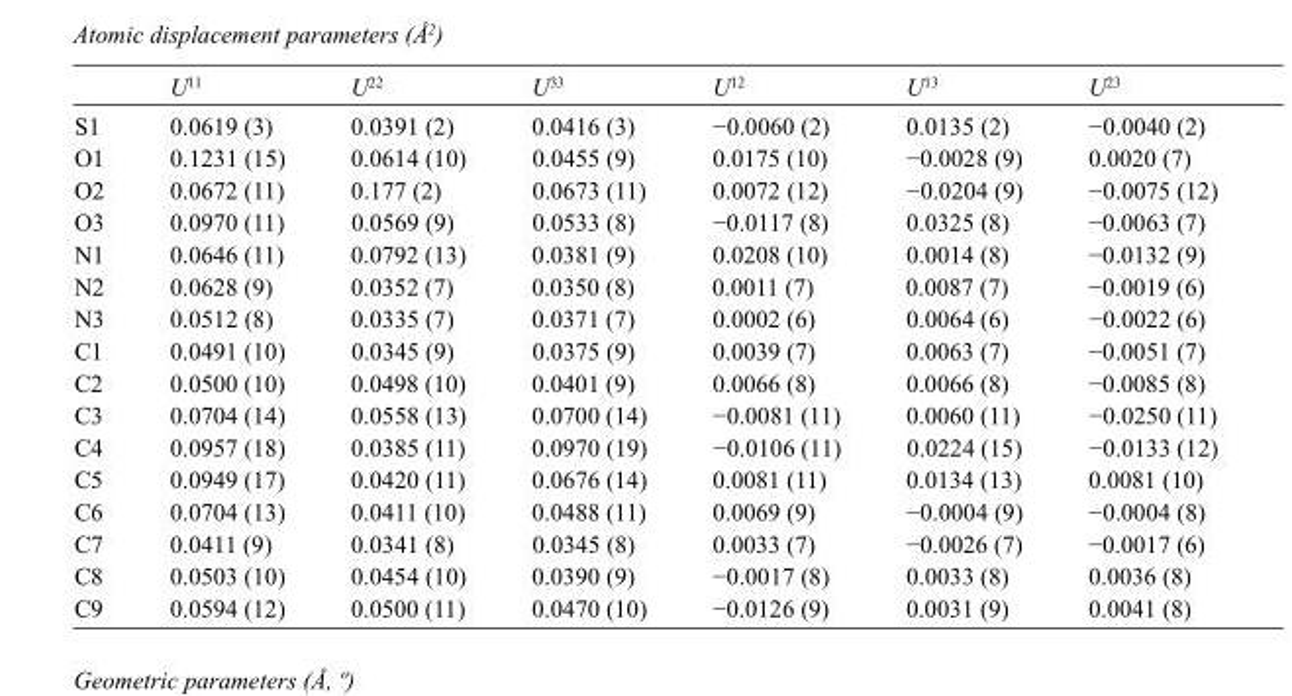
<table><thead><tr><td></td><td>U<sup>11</sup></td><td>U<sup>22</sup></td><td>U<sup>33</sup></td><td>U<sup>12</sup></td><td>U<sup>13</sup></td><td>U<sup>23</sup></td></tr></thead><tbody><tr><td>S1</td><td>0.0619 (3)</td><td>0.0391 (2)</td><td>0.0416 (3)</td><td>−0.0060 (2)</td><td>0.0135 (2)</td><td>−0.0040 (2)</td></tr><tr><td>O1</td><td>0.1231 (15)</td><td>0.0614 (10)</td><td>0.0455 (9)</td><td>0.0175 (10)</td><td>−0.0028 (9)</td><td>0.0020 (7)</td></tr><tr><td>O2</td><td>0.0672 (11)</td><td>0.177 (2)</td><td>0.0673 (11)</td><td>0.0072 (12)</td><td>−0.0204 (9)</td><td>−0.0075 (12)</td></tr><tr><td>O3</td><td>0.0970 (11)</td><td>0.0569 (9)</td><td>0.0533 (8)</td><td>−0.0117 (8)</td><td>0.0325 (8)</td><td>−0.0063 (7)</td></tr><tr><td>N1</td><td>0.0646 (11)</td><td>0.0792 (13)</td><td>0.0381 (9)</td><td>0.0208 (10)</td><td>0.0014 (8)</td><td>−0.0132 (9)</td></tr><tr><td>N2</td><td>0.0628 (9)</td><td>0.0352 (7)</td><td>0.0350 (8)</td><td>0.0011 (7)</td><td>0.0087 (7)</td><td>−0.0019 (6)</td></tr><tr><td>N3</td><td>0.0512 (8)</td><td>0.0335 (7)</td><td>0.0371 (7)</td><td>0.0002 (6)</td><td>0.0064 (6)</td><td>−0.0022 (6)</td></tr><tr><td>C1</td><td>0.0491 (10)</td><td>0.0345 (9)</td><td>0.0375 (9)</td><td>0.0039 (7)</td><td>0.0063 (7)</td><td>−0.0051 (7)</td></tr><tr><td>C2</td><td>0.0500 (10)</td><td>0.0498 (10)</td><td>0.0401 (9)</td><td>0.0066 (8)</td><td>0.0066 (8)</td><td>−0.0085 (8)</td></tr><tr><td>C3</td><td>0.0704 (14)</td><td>0.0558 (13)</td><td>0.0700 (14)</td><td>−0.0081 (11)</td><td>0.0060 (11)</td><td>−0.0250 (11)</td></tr><tr><td>C4</td><td>0.0957 (18)</td><td>0.0385 (11)</td><td>0.0970 (19)</td><td>−0.0106 (11)</td><td>0.0224 (15)</td><td>−0.0133 (12)</td></tr><tr><td>C5</td><td>0.0949 (17)</td><td>0.0420 (11)</td><td>0.0676 (14)</td><td>0.0081 (11)</td><td>0.0134 (13)</td><td>0.0081 (10)</td></tr><tr><td>C6</td><td>0.0704 (13)</td><td>0.0411 (10)</td><td>0.0488 (11)</td><td>0.0069 (9)</td><td>−0.0004 (9)</td><td>−0.0004 (8)</td></tr><tr><td>C7</td><td>0.0411 (9)</td><td>0.0341 (8)</td><td>0.0345 (8)</td><td>0.0033 (7)</td><td>−0.0026 (7)</td><td>−0.0017 (6)</td></tr><tr><td>C8</td><td>0.0503 (10)</td><td>0.0454 (10)</td><td>0.0390 (9)</td><td>−0.0017 (8)</td><td>0.0033 (8)</td><td>0.0036 (8)</td></tr><tr><td>C9</td><td>0.0594 (12)</td><td>0.0500 (11)</td><td>0.0470 (10)</td><td>−0.0126 (9)</td><td>0.0031 (9)</td><td>0.0041 (8)</td></tr></tbody></table>